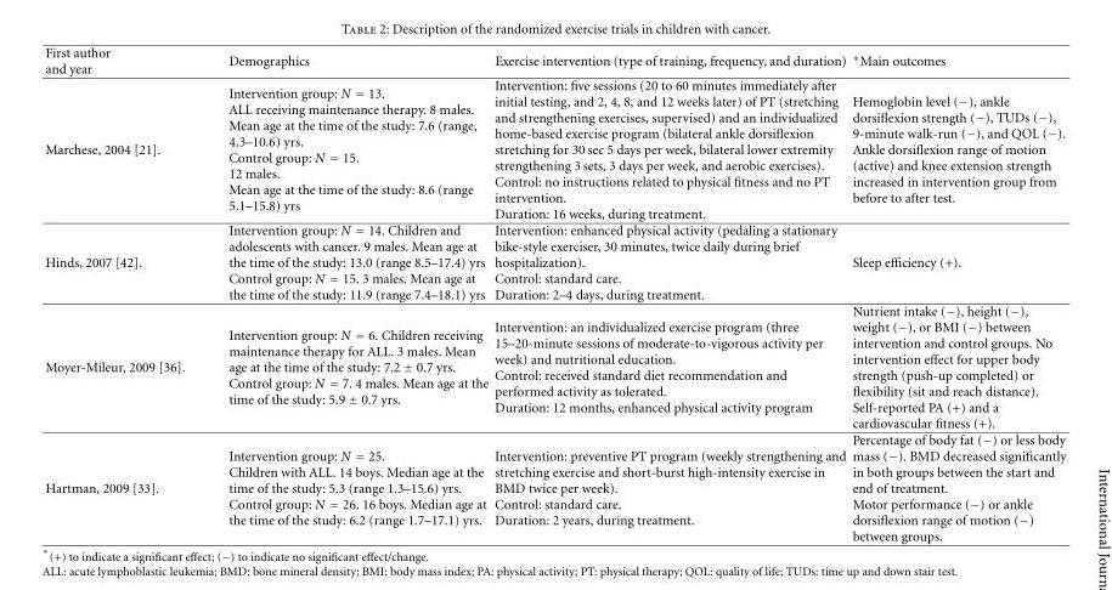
<table><thead><tr><td>First author and year</td><td>Demographics</td><td>Exercise intervention (type of training, frequency, and duration)</td><td>∗Main outcomes</td></tr></thead><tbody><tr><td>Marchese, 2004 [21].</td><td>Intervention group: N = 13. ALL receiving maintenance therapy. 8 males. Mean age at the time of the study: 7.6 (range, 4.3–10.6) yrs. Control group: N = 15. 12 males. Mean age at the time of the study: 8.6 (range 5.1–15.8) yrs</td><td>Intervention: five sessions (20 to 60 minutes immediately after initial testing, and 2, 4, 8, and 12 weeks later) of PT (stretching and strengthening exercises, supervised) and an individualized home-based exercise program (bilateral ankle dorsiflexion stretching for 30 sec 5 days per week, bilateral lower extremity strengthening 3 sets, 3 days per week, and aerobic exercises). Control: no instructions related to physical fitness and no PT intervention. Duration: 16 weeks, during treatment.</td><td>Hemoglobin level (−), ankle dorsiflexion strength (−), TUDs (−), 9-minute walk-run (−), and QOL (−). Ankle dorsiflexion range of motion (active) and knee extension strength increased in intervention group from before to after test.</td></tr><tr><td>Hinds, 2007 [42].</td><td>Intervention group: N = 14. Children and adolescents with cancer. 9 males. Mean age at the time of the study: 13.0 (range 8.5–17.4) yrs Control group: N = 15. 3 males. Mean age at the time of the study: 11.9 (range 7.4–18.1) yrs</td><td>Intervention: enhanced physical activity (pedaling a stationary bike-style exerciser, 30 minutes, twice daily during brief hospitalization). Control: standard care. Duration: 2–4 days, during treatment.</td><td>Sleep efficiency (+).</td></tr><tr><td>Moyer-Mileur, 2009 [36].</td><td>Intervention group: N = 6. Children receiving maintenance therapy for ALL. 3 males. Mean age at the time of the study: 7.2 ± 0.7 yrs. Control group: N = 7. 4 males. Mean age at the time of the study: 5.9 ± 0.7 yrs.</td><td>Intervention: an individualized exercise program (three 15–20-minute sessions of moderate-to-vigorous activity per week) and nutritional education. Control: received standard diet recommendation and performed activity as tolerated. Duration: 12 months, enhanced physical activity program</td><td>Nutrient intake (−), height (−), weight (−), or BMI (−) between intervention and control groups. No intervention effect for upper body strength (push-up completed) or flexibility (sit and reach distance). Self-reported PA (+) and a cardiovascular fitness (+).</td></tr><tr><td>Hartman, 2009 [33].</td><td>Intervention group: N = 25. Children with ALL. 14 boys. Median age at the time of the study: 5.3 (range 1.3–15.6) yrs. Control group: N = 26. 16 boys. Median age at the time of the study: 6.2 (range 1.7–17.1) yrs.</td><td>Intervention: preventive PT program (weekly strengthening and stretching exercise and short-burst high-intensity exercise in BMD twice per week). Control: standard care. Duration: 2 years, during treatment.</td><td>Percentage of body fat (−) or less body mass (−). BMD decreased significantly in both groups between the start and end of treatment. Motor performance (−) or ankle dorsiflexion range of motion (−) between groups.</td></tr></tbody></table>